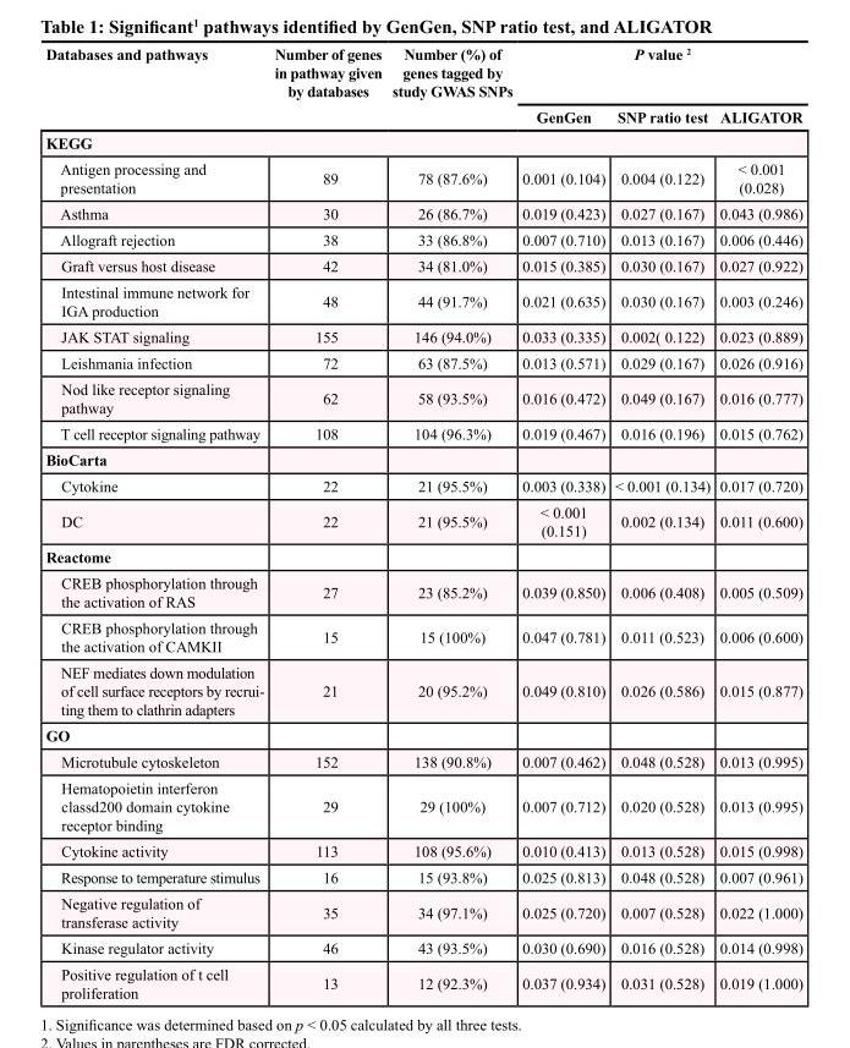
<table><thead><tr><td rowspan="2">Databases and pathways</td><td rowspan="2">Number of genes in pathway given by databases</td><td rowspan="2">Number (%) of genes tagged by study GWAS SNPs</td><td colspan="3">P value <sup>2</sup></td></tr><tr><td>GenGen</td><td>SNP ratio test</td><td>ALIGATOR</td></tr></thead><tbody><tr><td colspan="6">KEGG</td></tr><tr><td>Antigen processing and presentation</td><td>89</td><td>78 (87.6%)</td><td>0.001 (0.104)</td><td>0.004 (0.122)</td><td>&lt; 0.001 (0.028)</td></tr><tr><td>Asthma</td><td>30</td><td>26 (86.7%)</td><td>0.019 (0.423)</td><td>0.027 (0.167)</td><td>0.043 (0.986)</td></tr><tr><td>Allograft rejection</td><td>38</td><td>33 (86.8%)</td><td>0.007 (0.710)</td><td>0.013 (0.167)</td><td>0.006 (0.446)</td></tr><tr><td>Graft versus host disease</td><td>42</td><td>34 (81.0%)</td><td>0.015 (0.385)</td><td>0.030 (0.167)</td><td>0.027 (0.922)</td></tr><tr><td>Intestinal immune network for IGA production</td><td>48</td><td>44 (91.7%)</td><td>0.021 (0.635)</td><td>0.030 (0.167)</td><td>0.003 (0.246)</td></tr><tr><td>JAK STAT signaling</td><td>155</td><td>146 (94.0%)</td><td>0.033 (0.335)</td><td>0.002( 0.122)</td><td>0.023 (0.889)</td></tr><tr><td>Leishmania infection</td><td>72</td><td>63 (87.5%)</td><td>0.013 (0.571)</td><td>0.029 (0.167)</td><td>0.026 (0.916)</td></tr><tr><td>Nod like receptor signaling pathway</td><td>62</td><td>58 (93.5%)</td><td>0.016 (0.472)</td><td>0.049 (0.167)</td><td>0.016 (0.777)</td></tr><tr><td>T cell receptor signaling pathway</td><td>108</td><td>104 (96.3%)</td><td>0.019 (0.467)</td><td>0.016 (0.196)</td><td>0.015 (0.762)</td></tr><tr><td colspan="6">BioCarta</td></tr><tr><td>Cytokine</td><td>22</td><td>21 (95.5%)</td><td>0.003 (0.338)</td><td>&lt; 0.001 (0.134)</td><td>0.017 (0.720)</td></tr><tr><td>DC</td><td>22</td><td>21 (95.5%)</td><td>&lt; 0.001 (0.151)</td><td>0.002 (0.134)</td><td>0.011 (0.600)</td></tr><tr><td colspan="6">Reactome</td></tr><tr><td>CREB phosphorylation through the activation of RAS</td><td>27</td><td>23 (85.2%)</td><td>0.039 (0.850)</td><td>0.006 (0.408)</td><td>0.005 (0.509)</td></tr><tr><td>CREB phosphorylation through the activation of CAMKII</td><td>15</td><td>15 (100%)</td><td>0.047 (0.781)</td><td>0.011 (0.523)</td><td>0.006 (0.600)</td></tr><tr><td>NEF mediates down modulation of cell surface receptors by recrui- ting them to clathrin adapters</td><td>21</td><td>20 (95.2%)</td><td>0.049 (0.810)</td><td>0.026 (0.586)</td><td>0.015 (0.877)</td></tr><tr><td colspan="6">GO</td></tr><tr><td>Microtubule cytoskeleton</td><td>152</td><td>138 (90.8%)</td><td>0.007 (0.462)</td><td>0.048 (0.528)</td><td>0.013 (0.995)</td></tr><tr><td>Hematopoietin interferon classd200 domain cytokine receptor binding</td><td>29</td><td>29 (100%)</td><td>0.007 (0.712)</td><td>0.020 (0.528)</td><td>0.013 (0.995)</td></tr><tr><td>Cytokine activity</td><td>113</td><td>108 (95.6%)</td><td>0.010 (0.413)</td><td>0.013 (0.528)</td><td>0.015 (0.998)</td></tr><tr><td>Response to temperature stimulus</td><td>16</td><td>15 (93.8%)</td><td>0.025 (0.813)</td><td>0.048 (0.528)</td><td>0.007 (0.961)</td></tr><tr><td>Negative regulation of transferase activity</td><td>35</td><td>34 (97.1%)</td><td>0.025 (0.720)</td><td>0.007 (0.528)</td><td>0.022 (1.000)</td></tr><tr><td>Kinase regulator activity</td><td>46</td><td>43 (93.5%)</td><td>0.030 (0.690)</td><td>0.016 (0.528)</td><td>0.014 (0.998)</td></tr><tr><td>Positive regulation of t cell proliferation</td><td>13</td><td>12 (92.3%)</td><td>0.037 (0.934)</td><td>0.031 (0.528)</td><td>0.019 (1.000)</td></tr></tbody></table>